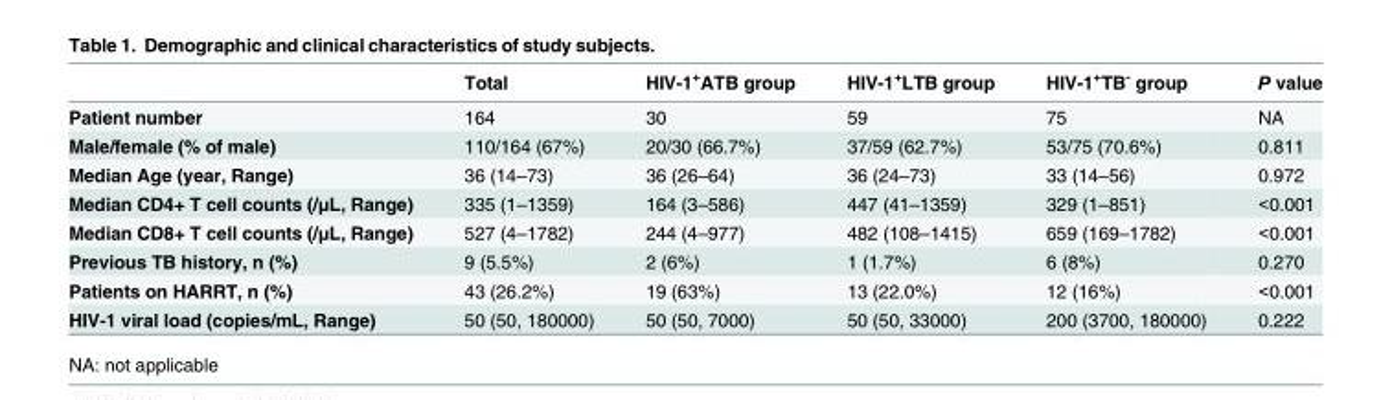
<table><thead><tr><td></td><td>Total</td><td>HIV-1<sup>+</sup>ATB group</td><td>HIV-1<sup>+</sup>LTB group</td><td>HIV-1<sup>+</sup>TB<sup>-</sup> group</td><td>P value</td></tr></thead><tbody><tr><td>Patient number</td><td>164</td><td>30</td><td>59</td><td>75</td><td>NA</td></tr><tr><td>Male/female (% of male)</td><td>110/164 (67%)</td><td>20/30 (66.7%)</td><td>37/59 (62.7%)</td><td>53/75 (70.6%)</td><td>0.811</td></tr><tr><td>Median Age (year, Range)</td><td>36 (14–73)</td><td>36 (26–64)</td><td>36 (24–73)</td><td>33 (14–56)</td><td>0.972</td></tr><tr><td>Median CD4+ T cell counts (/μL, Range)</td><td>335 (1–1359)</td><td>164 (3–586)</td><td>447 (41–1359)</td><td>329 (1–851)</td><td>&lt;0.001</td></tr><tr><td>Median CD8+ T cell counts (/μL, Range)</td><td>527 (4–1782)</td><td>244 (4–977)</td><td>482 (108–1415)</td><td>659 (169–1782)</td><td>&lt;0.001</td></tr><tr><td>Previous TB history, n (%)</td><td>9 (5.5%)</td><td>2 (6%)</td><td>1 (1.7%)</td><td>6 (8%)</td><td>0.270</td></tr><tr><td>Patients on HARRT, n (%)</td><td>43 (26.2%)</td><td>19 (63%)</td><td>13 (22.0%)</td><td>12 (16%)</td><td>&lt;0.001</td></tr><tr><td>HIV-1 viral load (copies/mL, Range)</td><td>50 (50, 180000)</td><td>50 (50, 7000)</td><td>50 (50, 33000)</td><td>200 (3700, 180000)</td><td>0.222</td></tr></tbody></table>